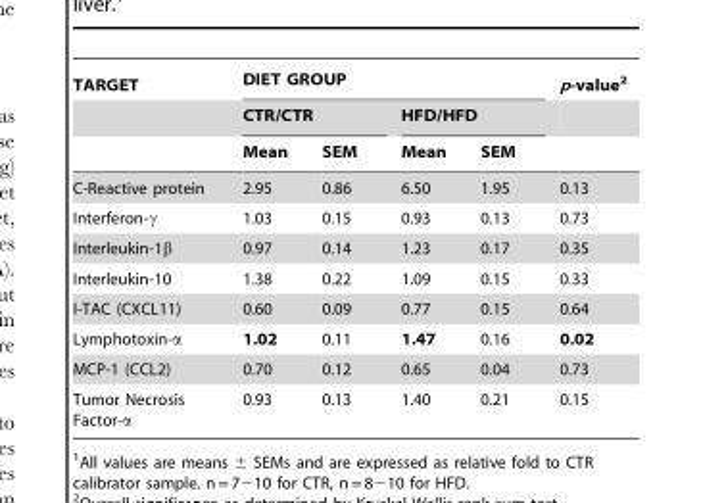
<table><thead><tr><td rowspan="3">TARGET</td><td colspan="4">DIET GROUP</td><td rowspan="3">p-value<sup>2</sup></td></tr><tr><td colspan="2">CTR/CTR</td><td colspan="2">HFD/HFD</td></tr><tr><td>Mean</td><td>SEM</td><td>Mean</td><td>SEM</td></tr></thead><tbody><tr><td>C-Reactive protein</td><td>2.95</td><td>0.86</td><td>6.50</td><td>1.95</td><td>0.13</td></tr><tr><td>Interferon-γ</td><td>1.03</td><td>0.15</td><td>0.93</td><td>0.13</td><td>0.73</td></tr><tr><td>Interleukin-1β</td><td>0.97</td><td>0.14</td><td>1.23</td><td>0.17</td><td>0.35</td></tr><tr><td>Interleukin-10</td><td>1.38</td><td>0.22</td><td>1.09</td><td>0.15</td><td>0.33</td></tr><tr><td>I-TAC (CXCL11)</td><td>0.60</td><td>0.09</td><td>0.77</td><td>0.15</td><td>0.64</td></tr><tr><td>Lymphotoxin-α</td><td>1.02</td><td>0.11</td><td>1.47</td><td>0.16</td><td>0.02</td></tr><tr><td>MCP-1 (CCL2)</td><td>0.70</td><td>0.12</td><td>0.65</td><td>0.04</td><td>0.73</td></tr><tr><td>Tumor Necrosis Factor-α</td><td>0.93</td><td>0.13</td><td>1.40</td><td>0.21</td><td>0.15</td></tr></tbody></table>